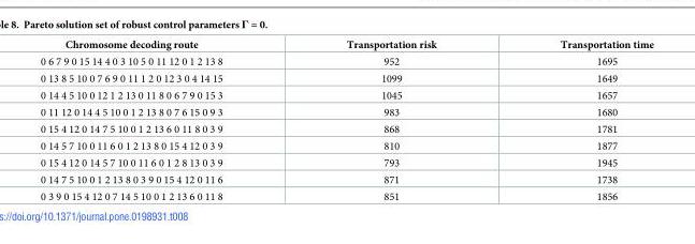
<table><thead><tr><td>Chromosome decoding route</td><td>Transportation risk</td><td>Transportation time</td></tr></thead><tbody><tr><td>0 6 7 9 0 15 14 4 0 3 10 5 0 11 12 0 1 2 13 8</td><td>952</td><td>1695</td></tr><tr><td>0 13 8 5 10 0 7 6 9 0 11 1 2 0 12 3 0 4 14 15</td><td>1099</td><td>1649</td></tr><tr><td>0 14 4 5 10 0 12 1 2 13 0 11 8 0 6 7 9 0 15 3</td><td>1045</td><td>1657</td></tr><tr><td>0 11 12 0 14 4 5 10 0 1 2 13 8 0 7 6 15 0 9 3</td><td>983</td><td>1680</td></tr><tr><td>0 15 4 12 0 14 7 5 10 0 1 2 13 6 0 11 8 0 3 9</td><td>868</td><td>1781</td></tr><tr><td>0 14 5 7 10 0 11 6 0 1 2 13 8 0 15 4 12 0 3 9</td><td>810</td><td>1877</td></tr><tr><td>0 15 4 12 0 14 5 7 10 0 11 6 0 1 2 8 13 0 3 9</td><td>793</td><td>1945</td></tr><tr><td>0 14 7 5 10 0 1 2 13 8 0 3 9 0 15 4 12 0 11 6</td><td>871</td><td>1738</td></tr><tr><td>0 3 9 0 15 4 12 0 7 14 5 10 0 1 2 13 6 0 11 8</td><td>851</td><td>1856</td></tr></tbody></table>